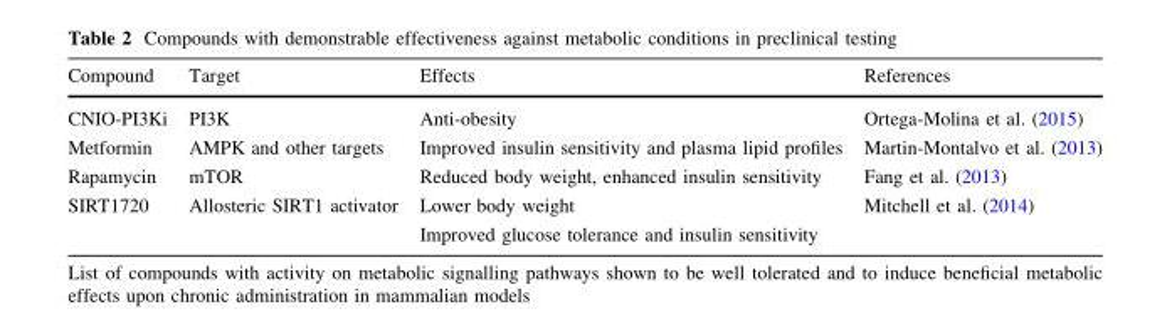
<table><thead><tr><td>Compound</td><td>Target</td><td>Effects</td><td>References</td></tr></thead><tbody><tr><td>CNIO-PI3Ki</td><td>PI3K</td><td>Anti-obesity</td><td>Ortega-Molina et al. (2015)</td></tr><tr><td>Metformin</td><td>AMPK and other targets</td><td>Improved insulin sensitivity and plasma lipid profiles</td><td>Martin-Montalvo et al. (2013)</td></tr><tr><td>Rapamycin</td><td>mTOR</td><td>Reduced body weight, enhanced insulin sensitivity</td><td>Fang et al. (2013)</td></tr><tr><td>SIRT1720</td><td>Allosteric SIRT1 activator</td><td>Lower body weight Improved glucose tolerance and insulin sensitivity</td><td>Mitchell et al. (2014)</td></tr></tbody></table>